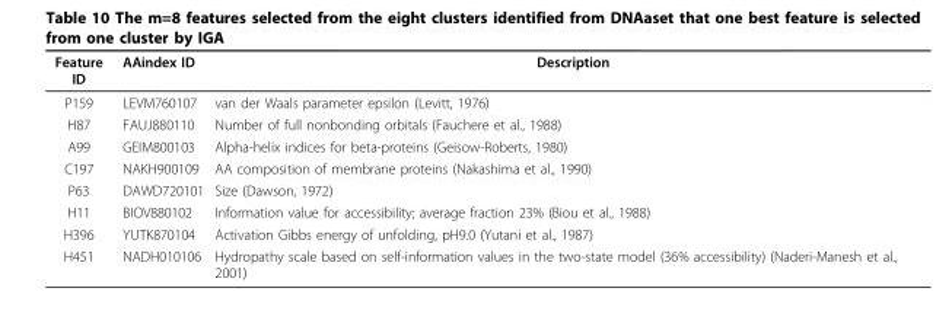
<table><thead><tr><td>Feature ID</td><td>AAindex ID</td><td>Description</td></tr></thead><tbody><tr><td>P159</td><td>LEVM760107</td><td>van der Waals parameter epsilon (Levitt, 1976)</td></tr><tr><td>H87</td><td>FAUJ880110</td><td>Number of full nonbonding orbitals (Fauchere et al., 1988)</td></tr><tr><td>A99</td><td>GEIM800103</td><td>Alpha-helix indices for beta-proteins (Geisow-Roberts, 1980)</td></tr><tr><td>C197</td><td>NAKH900109</td><td>AA composition of membrane proteins (Nakashima et al., 1990)</td></tr><tr><td>P63</td><td>DAWD720101</td><td>Size (Dawson, 1972)</td></tr><tr><td>H11</td><td>BIOV880102</td><td>Information value for accessibility; average fraction 23% (Biou et al., 1988)</td></tr><tr><td>H396</td><td>YUTK870104</td><td>Activation Gibbs energy of unfolding, pH9.0 (Yutani et al., 1987)</td></tr><tr><td>H451</td><td>NADH010106</td><td>Hydropathy scale based on self-information values in the two-state model (36% accessibility) (Naderi-Manesh et al., 2001)</td></tr></tbody></table>